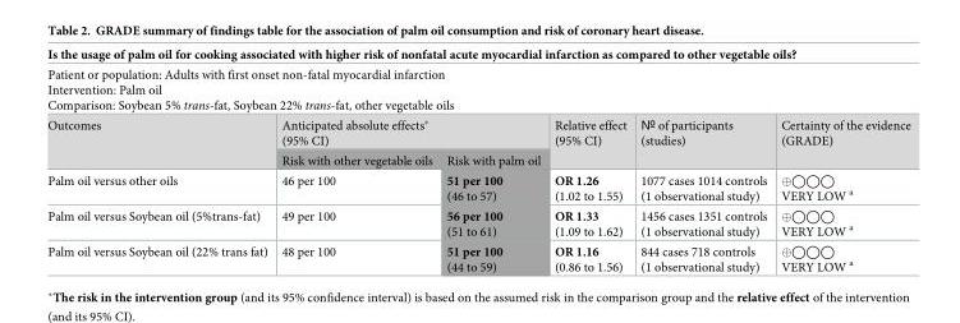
<table><tbody><tr><td colspan="6">Is the usage of palm oil for cooking associated with higher risk of nonfatal acute myocardial infarction as compared to other vegetable oils?</td></tr><tr><td colspan="6">Patient or population: Adults with first onset non-fatal myocardial infarction Intervention: Palm oil Comparison: Soybean 5% trans-fat, Soybean 22% trans-fat, other vegetable oils</td></tr><tr><td rowspan="2">Outcomes</td><td colspan="2">Anticipated absolute effects* (95% CI)</td><td rowspan="2">Relative effect (95% CI)</td><td rowspan="2">№ of participants (studies)</td><td rowspan="2">Certainty of the evidence (GRADE)</td></tr><tr><td>Risk with other vegetable oils</td><td>Risk with palm oil</td></tr><tr><td>Palm oil versus other oils</td><td>46 per 100</td><td>51 per 100 (46 to 57)</td><td>OR 1.26 (1.02 to 1.55)</td><td>1077 cases 1014 controls (1 observational study)</td><td>⊕◯◯◯ VERY LOW <sup>a</sup></td></tr><tr><td>Palm oil versus Soybean oil (5%trans-fat)</td><td>49 per 100</td><td>56 per 100 (51 to 61)</td><td>OR 1.33 (1.09 to 1.62)</td><td>1456 cases 1351 controls (1 observational study)</td><td>⊕◯◯◯ VERY LOW <sup>a</sup></td></tr><tr><td>Palm oil versus Soybean oil (22% trans fat)</td><td>48 per 100</td><td>51 per 100 (44 to 59)</td><td>OR 1.16 (0.86 to 1.56)</td><td>844 cases 718 controls (1 observational study)</td><td>⊕◯◯◯ VERY LOW <sup>a</sup></td></tr></tbody></table>